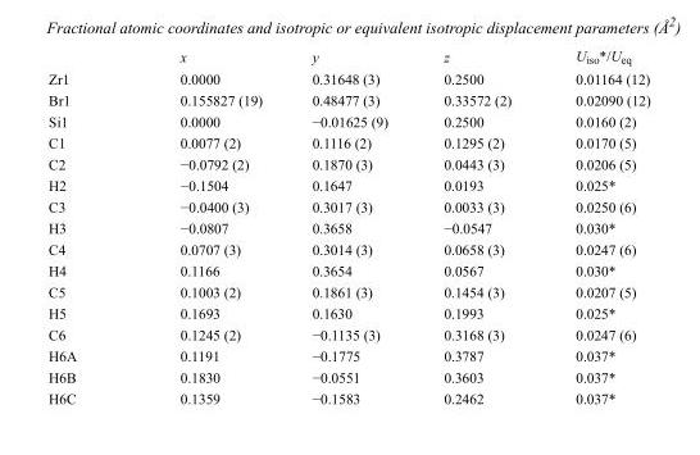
<table><thead><tr><td></td><td>x</td><td>y</td><td>z</td><td>U<sub>iso</sub>*/U<sub>eq</sub></td></tr></thead><tbody><tr><td>Zr1</td><td>0.0000</td><td>0.31648 (3)</td><td>0.2500</td><td>0.01164 (12)</td></tr><tr><td>Br1</td><td>0.155827 (19)</td><td>0.48477 (3)</td><td>0.33572 (2)</td><td>0.02090 (12)</td></tr><tr><td>Si1</td><td>0.0000</td><td>−0.01625 (9)</td><td>0.2500</td><td>0.0160 (2)</td></tr><tr><td>C1</td><td>0.0077 (2)</td><td>0.1116 (2)</td><td>0.1295 (2)</td><td>0.0170 (5)</td></tr><tr><td>C2</td><td>−0.0792 (2)</td><td>0.1870 (3)</td><td>0.0443 (3)</td><td>0.0206 (5)</td></tr><tr><td>H2</td><td>−0.1504</td><td>0.1647</td><td>0.0193</td><td>0.025*</td></tr><tr><td>C3</td><td>−0.0400 (3)</td><td>0.3017 (3)</td><td>0.0033 (3)</td><td>0.0250 (6)</td></tr><tr><td>H3</td><td>−0.0807</td><td>0.3658</td><td>−0.0547</td><td>0.030*</td></tr><tr><td>C4</td><td>0.0707 (3)</td><td>0.3014 (3)</td><td>0.0658 (3)</td><td>0.0247 (6)</td></tr><tr><td>H4</td><td>0.1166</td><td>0.3654</td><td>0.0567</td><td>0.030*</td></tr><tr><td>C5</td><td>0.1003 (2)</td><td>0.1861 (3)</td><td>0.1454 (3)</td><td>0.0207 (5)</td></tr><tr><td>H5</td><td>0.1693</td><td>0.1630</td><td>0.1993</td><td>0.025*</td></tr><tr><td>C6</td><td>0.1245 (2)</td><td>−0.1135 (3)</td><td>0.3168 (3)</td><td>0.0247 (6)</td></tr><tr><td>H6A</td><td>0.1191</td><td>−0.1775</td><td>0.3787</td><td>0.037*</td></tr><tr><td>H6B</td><td>0.1830</td><td>−0.0551</td><td>0.3603</td><td>0.037*</td></tr><tr><td>H6C</td><td>0.1359</td><td>−0.1583</td><td>0.2462</td><td>0.037*</td></tr></tbody></table>